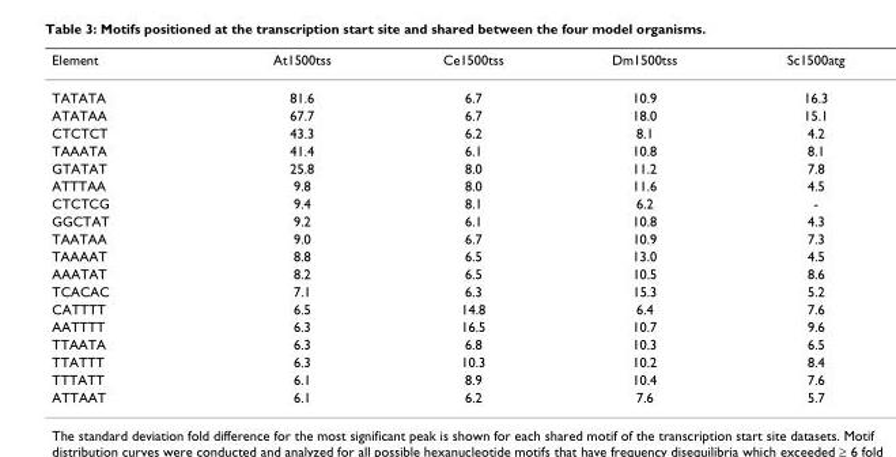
<table><thead><tr><td>Element</td><td>At1500tss</td><td>Ce1500tss</td><td>Dm1500tss</td><td>Sc1500atg</td></tr></thead><tbody><tr><td>TATATA</td><td>81.6</td><td>6.7</td><td>10.9</td><td>16.3</td></tr><tr><td>ATATAA</td><td>67.7</td><td>6.7</td><td>18.0</td><td>15.1</td></tr><tr><td>CTCTCT</td><td>43.3</td><td>6.2</td><td>8.1</td><td>4.2</td></tr><tr><td>TAAATA</td><td>41.4</td><td>6.1</td><td>10.8</td><td>8.1</td></tr><tr><td>GTATAT</td><td>25.8</td><td>8.0</td><td>11.2</td><td>7.8</td></tr><tr><td>ATTTAA</td><td>9.8</td><td>8.0</td><td>11.6</td><td>4.5</td></tr><tr><td>CTCTCG</td><td>9.4</td><td>8.1</td><td>6.2</td><td>-</td></tr><tr><td>GGCTAT</td><td>9.2</td><td>6.1</td><td>10.8</td><td>4.3</td></tr><tr><td>TAATAA</td><td>9.0</td><td>6.7</td><td>10.9</td><td>7.3</td></tr><tr><td>TAAAAT</td><td>8.8</td><td>6.5</td><td>13.0</td><td>4.5</td></tr><tr><td>AAATAT</td><td>8.2</td><td>6.5</td><td>10.5</td><td>8.6</td></tr><tr><td>TCACAC</td><td>7.1</td><td>6.3</td><td>15.3</td><td>5.2</td></tr><tr><td>CATTTT</td><td>6.5</td><td>14.8</td><td>6.4</td><td>7.6</td></tr><tr><td>AATTTT</td><td>6.3</td><td>16.5</td><td>10.7</td><td>9.6</td></tr><tr><td>TTAATA</td><td>6.3</td><td>6.8</td><td>10.3</td><td>6.5</td></tr><tr><td>TTATTT</td><td>6.3</td><td>10.3</td><td>10.2</td><td>8.4</td></tr><tr><td>TTTATT</td><td>6.1</td><td>8.9</td><td>10.4</td><td>7.6</td></tr><tr><td>ATTAAT</td><td>6.1</td><td>6.2</td><td>7.6</td><td>5.7</td></tr></tbody></table>